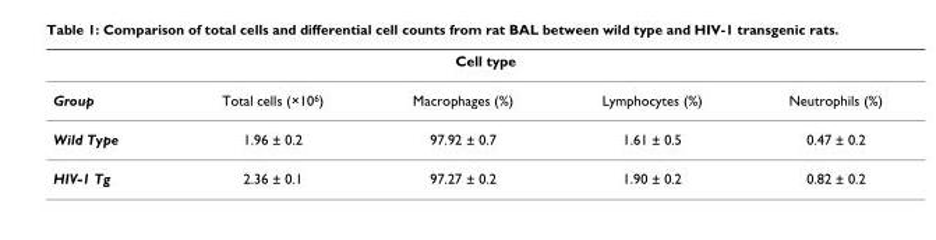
<table><thead><tr><td colspan="5">Cell type</td></tr><tr><td>Group</td><td>Total cells (×10<sup>6</sup>)</td><td>Macrophages (%)</td><td>Lymphocytes (%)</td><td>Neutrophils (%)</td></tr></thead><tbody><tr><td>Wild Type</td><td>1.96 ± 0.2</td><td>97.92 ± 0.7</td><td>1.61 ± 0.5</td><td>0.47 ± 0.2</td></tr><tr><td>HIV-1 Tg</td><td>2.36 ± 0.1</td><td>97.27 ± 0.2</td><td>1.90 ± 0.2</td><td>0.82 ± 0.2</td></tr></tbody></table>